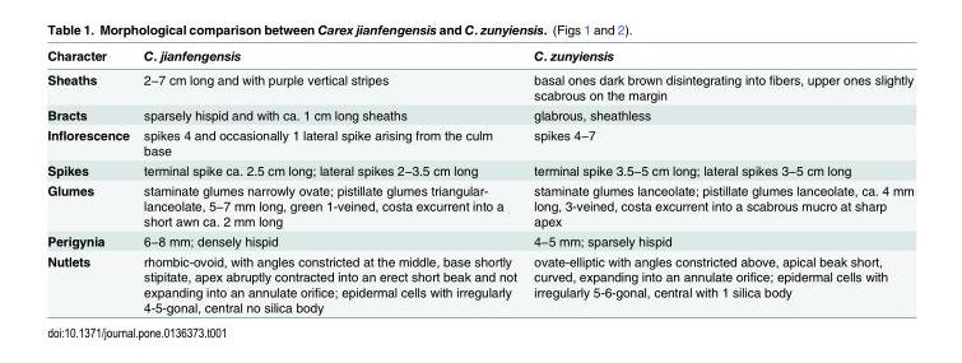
<table><thead><tr><td>Character</td><td>C. jianfengensis</td><td>C. zunyiensis</td></tr></thead><tbody><tr><td>Sheaths</td><td>2−7 cm long and with purple vertical stripes</td><td>basal ones dark brown disintegrating into fibers, upper ones slightly scabrous on the margin</td></tr><tr><td>Bracts</td><td>sparsely hispid and with ca. 1 cm long sheaths</td><td>glabrous, sheathless</td></tr><tr><td>Inflorescence</td><td>spikes 4 and occasionally 1 lateral spike arising from the culm base</td><td>spikes 4−7</td></tr><tr><td>Spikes</td><td>terminal spike ca. 2.5 cm long; lateral spikes 2−3.5 cm long</td><td>terminal spike 3.5−5 cm long; lateral spikes 3−5 cm long</td></tr><tr><td>Glumes</td><td>staminate glumes narrowly ovate; pistillate glumes triangular- lanceolate, 5−7 mm long, green 1-veined, costa excurrent into a short awn ca. 2 mm long</td><td>staminate glumes lanceolate; pistillate glumes lanceolate, ca. 4 mm long, 3-veined, costa excurrent into a scabrous mucro at sharp apex</td></tr><tr><td>Perigynia</td><td>6−8 mm; densely hispid</td><td>4−5 mm; sparsely hispid</td></tr><tr><td>Nutlets</td><td>rhombic-ovoid, with angles constricted at the middle, base shortly stipitate, apex abruptly contracted into an erect short beak and not expanding into an annulate orifice; epidermal cells with irregularly 4-5-gonal, central no silica body</td><td>ovate-elliptic with angles constricted above, apical beak short, curved, expanding into an annulate orifice; epidermal cells with irregularly 5-6-gonal, central with 1 silica body</td></tr></tbody></table>